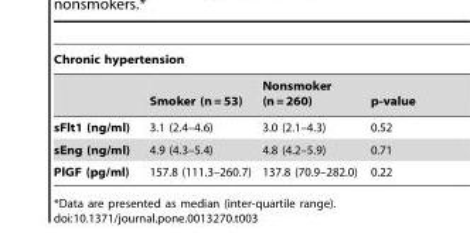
<table><thead><tr><td colspan="4">Chronic hypertension</td></tr><tr><td></td><td>Smoker (n = 53)</td><td>Nonsmoker (n = 260)</td><td>p-value</td></tr></thead><tbody><tr><td>sFlt1 (ng/ml)</td><td>3.1 (2.4–4.6)</td><td>3.0 (2.1–4.3)</td><td>0.52</td></tr><tr><td>sEng (ng/ml)</td><td>4.9 (4.3–5.4)</td><td>4.8 (4.2–5.9)</td><td>0.71</td></tr><tr><td>PlGF (pg/ml)</td><td>157.8 (111.3–260.7)</td><td>137.8 (70.9–282.0)</td><td>0.22</td></tr></tbody></table>